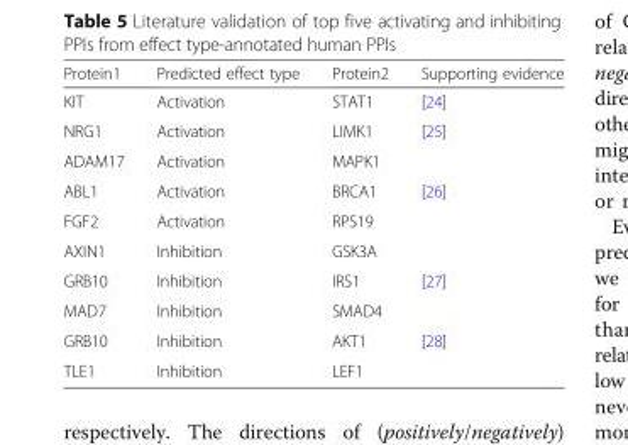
<table><thead><tr><td>Protein1</td><td>Predicted effect type</td><td>Protein2</td><td>Supporting evidence</td></tr></thead><tbody><tr><td>KIT</td><td>Activation</td><td>STAT1</td><td>[24]</td></tr><tr><td>NRG1</td><td>Activation</td><td>LIMK1</td><td>[25]</td></tr><tr><td>ADAM17</td><td>Activation</td><td>MAPK1</td><td></td></tr><tr><td>ABL1</td><td>Activation</td><td>BRCA1</td><td>[26]</td></tr><tr><td>FGF2</td><td>Activation</td><td>RPS19</td><td></td></tr><tr><td>AXIN1</td><td>Inhibition</td><td>GSK3A</td><td></td></tr><tr><td>GRB10</td><td>Inhibition</td><td>IRS1</td><td>[27]</td></tr><tr><td>MAD7</td><td>Inhibition</td><td>SMAD4</td><td></td></tr><tr><td>GRB10</td><td>Inhibition</td><td>AKT1</td><td>[28]</td></tr><tr><td>TLE1</td><td>Inhibition</td><td>LEF1</td><td></td></tr></tbody></table>